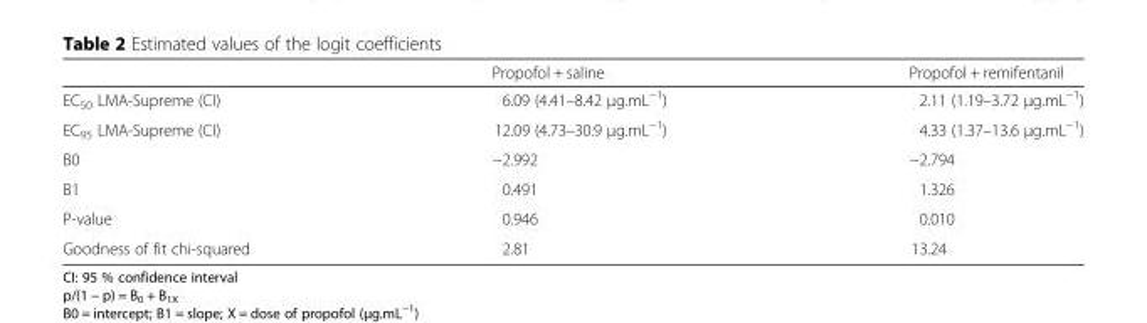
<table><thead><tr><td></td><td>Propofol + saline</td><td>Propofol + remifentanil</td></tr></thead><tbody><tr><td>EC<sub>50</sub> LMA-Supreme (CI)</td><td>6.09 (4.41–8.42 μg.mL<sup>−1</sup>)</td><td>2.11 (1.19–3.72 μg.mL<sup>−1</sup>)</td></tr><tr><td>EC<sub>95</sub> LMA-Supreme (CI)</td><td>12.09 (4.73–30.9 μg.mL<sup>−1</sup>)</td><td>4.33 (1.37–13.6 μg.mL<sup>−1</sup>)</td></tr><tr><td>B0</td><td>−2.992</td><td>−2.794</td></tr><tr><td>B1</td><td>0.491</td><td>1.326</td></tr><tr><td>P-value</td><td>0.946</td><td>0.010</td></tr><tr><td>Goodness of fit chi-squared</td><td>2.81</td><td>13.24</td></tr></tbody></table>